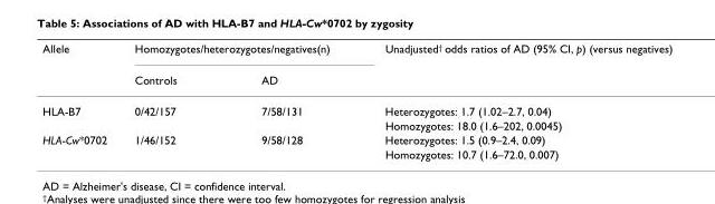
<table><thead><tr><td rowspan="2">Allele</td><td colspan="2">Homozygotes/heterozygotes/negatives(n)</td><td rowspan="2">Unadjusted<sup>†</sup> odds ratios of AD (95% CI, p) (versus negatives)</td></tr><tr><td>Controls</td><td>AD</td></tr></thead><tbody><tr><td rowspan="2">HLA-B7</td><td>0/42/157</td><td>7/58/131</td><td>Heterozygotes: 1.7 (1.02–2.7, 0.04)</td></tr><tr><td></td><td></td><td>Homozygotes: 18.0 (1.6–202, 0.0045)</td></tr><tr><td rowspan="2">HLA-Cw*0702</td><td>1/46/152</td><td>9/58/128</td><td>Heterozygotes: 1.5 (0.9–2.4, 0.09)</td></tr><tr><td></td><td></td><td>Homozygotes: 10.7 (1.6–72.0, 0.007)</td></tr></tbody></table>